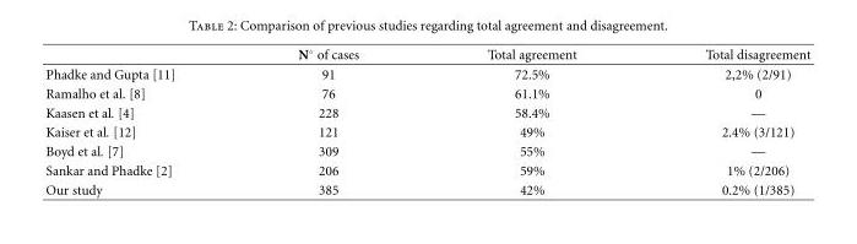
<table><thead><tr><td></td><td>N◦ of cases</td><td>Total agreement</td><td>Total disagreement</td></tr></thead><tbody><tr><td>Phadke and Gupta [11]</td><td>91</td><td>72.5%</td><td>2,2% (2/91)</td></tr><tr><td>Ramalho et al. [8]</td><td>76</td><td>61.1%</td><td>0</td></tr><tr><td>Kaasen et al. [4]</td><td>228</td><td>58.4%</td><td>—</td></tr><tr><td>Kaiser et al. [12]</td><td>121</td><td>49%</td><td>2.4% (3/121)</td></tr><tr><td>Boyd et al. [7]</td><td>309</td><td>55%</td><td>—</td></tr><tr><td>Sankar and Phadke [2]</td><td>206</td><td>59%</td><td>1% (2/206)</td></tr><tr><td>Our study</td><td>385</td><td>42%</td><td>0.2% (1/385)</td></tr></tbody></table>